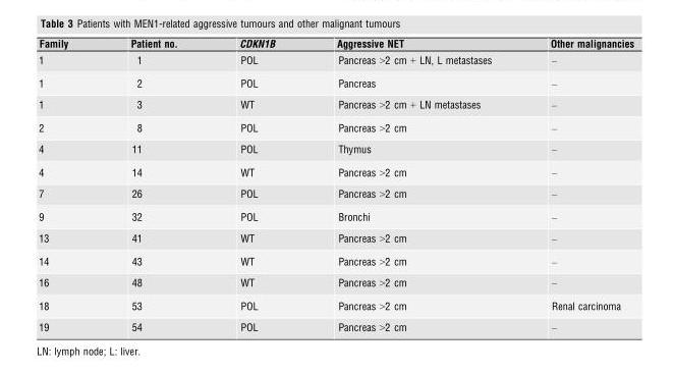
<table><thead><tr><td>Family</td><td>Patient no.</td><td>CDKN1B</td><td>Aggressive NET</td><td>Other malignancies</td></tr></thead><tbody><tr><td>1</td><td>1</td><td>POL</td><td>Pancreas &gt;2 cm + LN, L metastases</td><td>–</td></tr><tr><td>1</td><td>2</td><td>POL</td><td>Pancreas</td><td>–</td></tr><tr><td>1</td><td>3</td><td>WT</td><td>Pancreas &gt;2 cm + LN metastases</td><td>–</td></tr><tr><td>2</td><td>8</td><td>POL</td><td>Pancreas &gt;2 cm</td><td>–</td></tr><tr><td>4</td><td>11</td><td>POL</td><td>Thymus</td><td>–</td></tr><tr><td>4</td><td>14</td><td>WT</td><td>Pancreas &gt;2 cm</td><td>–</td></tr><tr><td>7</td><td>26</td><td>POL</td><td>Pancreas &gt;2 cm</td><td>–</td></tr><tr><td>9</td><td>32</td><td>POL</td><td>Bronchi</td><td>–</td></tr><tr><td>13</td><td>41</td><td>WT</td><td>Pancreas &gt;2 cm</td><td>–</td></tr><tr><td>14</td><td>43</td><td>WT</td><td>Pancreas &gt;2 cm</td><td>–</td></tr><tr><td>16</td><td>48</td><td>WT</td><td>Pancreas &gt;2 cm</td><td>–</td></tr><tr><td>18</td><td>53</td><td>POL</td><td>Pancreas &gt;2 cm</td><td>Renal carcinoma</td></tr><tr><td>19</td><td>54</td><td>POL</td><td>Pancreas &gt;2 cm</td><td>–</td></tr></tbody></table>